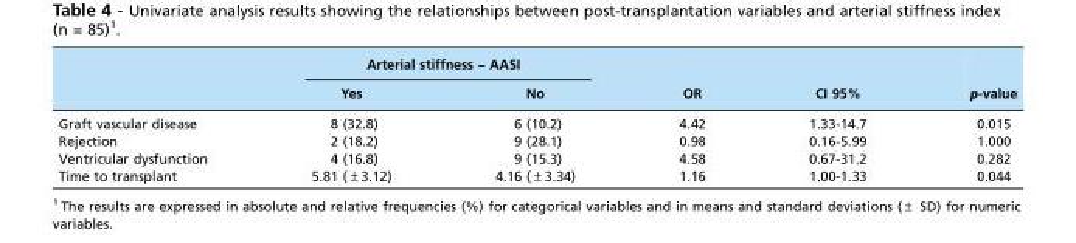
<table><thead><tr><td rowspan="2"></td><td colspan="2">Arterial stiffness – AASI</td><td rowspan="2">OR</td><td rowspan="2">CI 95%</td><td rowspan="2">p-value</td></tr><tr><td>Yes</td><td>No</td></tr></thead><tbody><tr><td>Graft vascular disease</td><td>8 (32.8)</td><td>6 (10.2)</td><td>4.42</td><td>1.33-14.7</td><td>0.015</td></tr><tr><td>Rejection</td><td>2 (18.2)</td><td>9 (28.1)</td><td>0.98</td><td>0.16-5.99</td><td>1.000</td></tr><tr><td>Ventricular dysfunction</td><td>4 (16.8)</td><td>9 (15.3)</td><td>4.58</td><td>0.67-31.2</td><td>0.282</td></tr><tr><td>Time to transplant</td><td>5.81 (±3.12)</td><td>4.16 (±3.34)</td><td>1.16</td><td>1.00-1.33</td><td>0.044</td></tr></tbody></table>